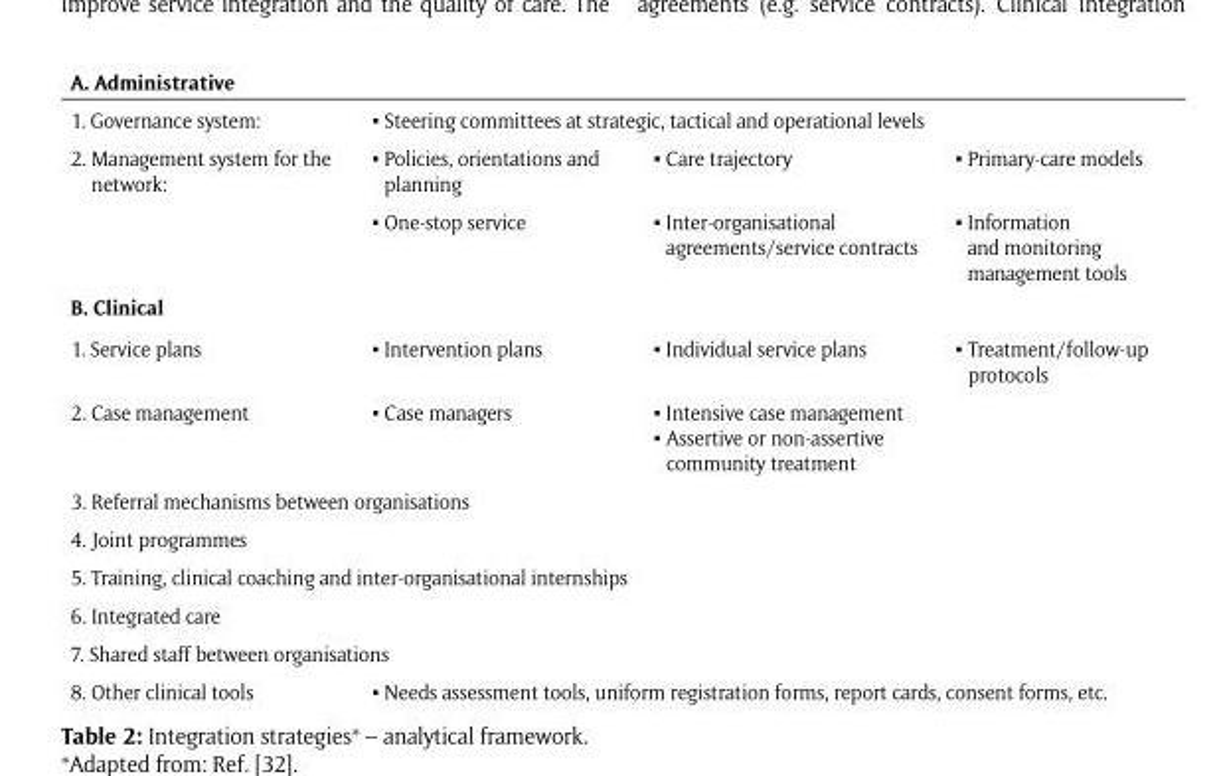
<table><tbody><tr><td colspan="4">A. Administrative</td></tr><tr><td>1. Governance system:</td><td colspan="3">▪ Steering committees at strategic, tactical and operational levels</td></tr><tr><td rowspan="2">2. Management system for the network:</td><td>▪ Policies, orientations and planning</td><td>▪ Care trajectory</td><td>▪ Primary-care models</td></tr><tr><td>▪ One-stop service</td><td>▪ Inter-organisational agreements/service contracts</td><td>▪ Information and monitoring management tools</td></tr><tr><td colspan="4">B. Clinical</td></tr><tr><td>1. Service plans</td><td>▪ Intervention plans</td><td>▪ Individual service plans</td><td>▪ Treatment/follow-up protocols</td></tr><tr><td>2. Case management</td><td>▪ Case managers</td><td>▪ Intensive case management ▪ Assertive or non-assertive community treatment</td><td></td></tr><tr><td colspan="4">3. Referral mechanisms between organisations</td></tr><tr><td colspan="4">4. Joint programmes</td></tr><tr><td colspan="4">5. Training, clinical coaching and inter-organisational internships</td></tr><tr><td colspan="4">6. Integrated care</td></tr><tr><td colspan="4">7. Shared staff between organisations</td></tr><tr><td>8. Other clinical tools</td><td colspan="3">▪ Needs assessment tools, uniform registration forms, report cards, consent forms, etc.</td></tr></tbody></table>